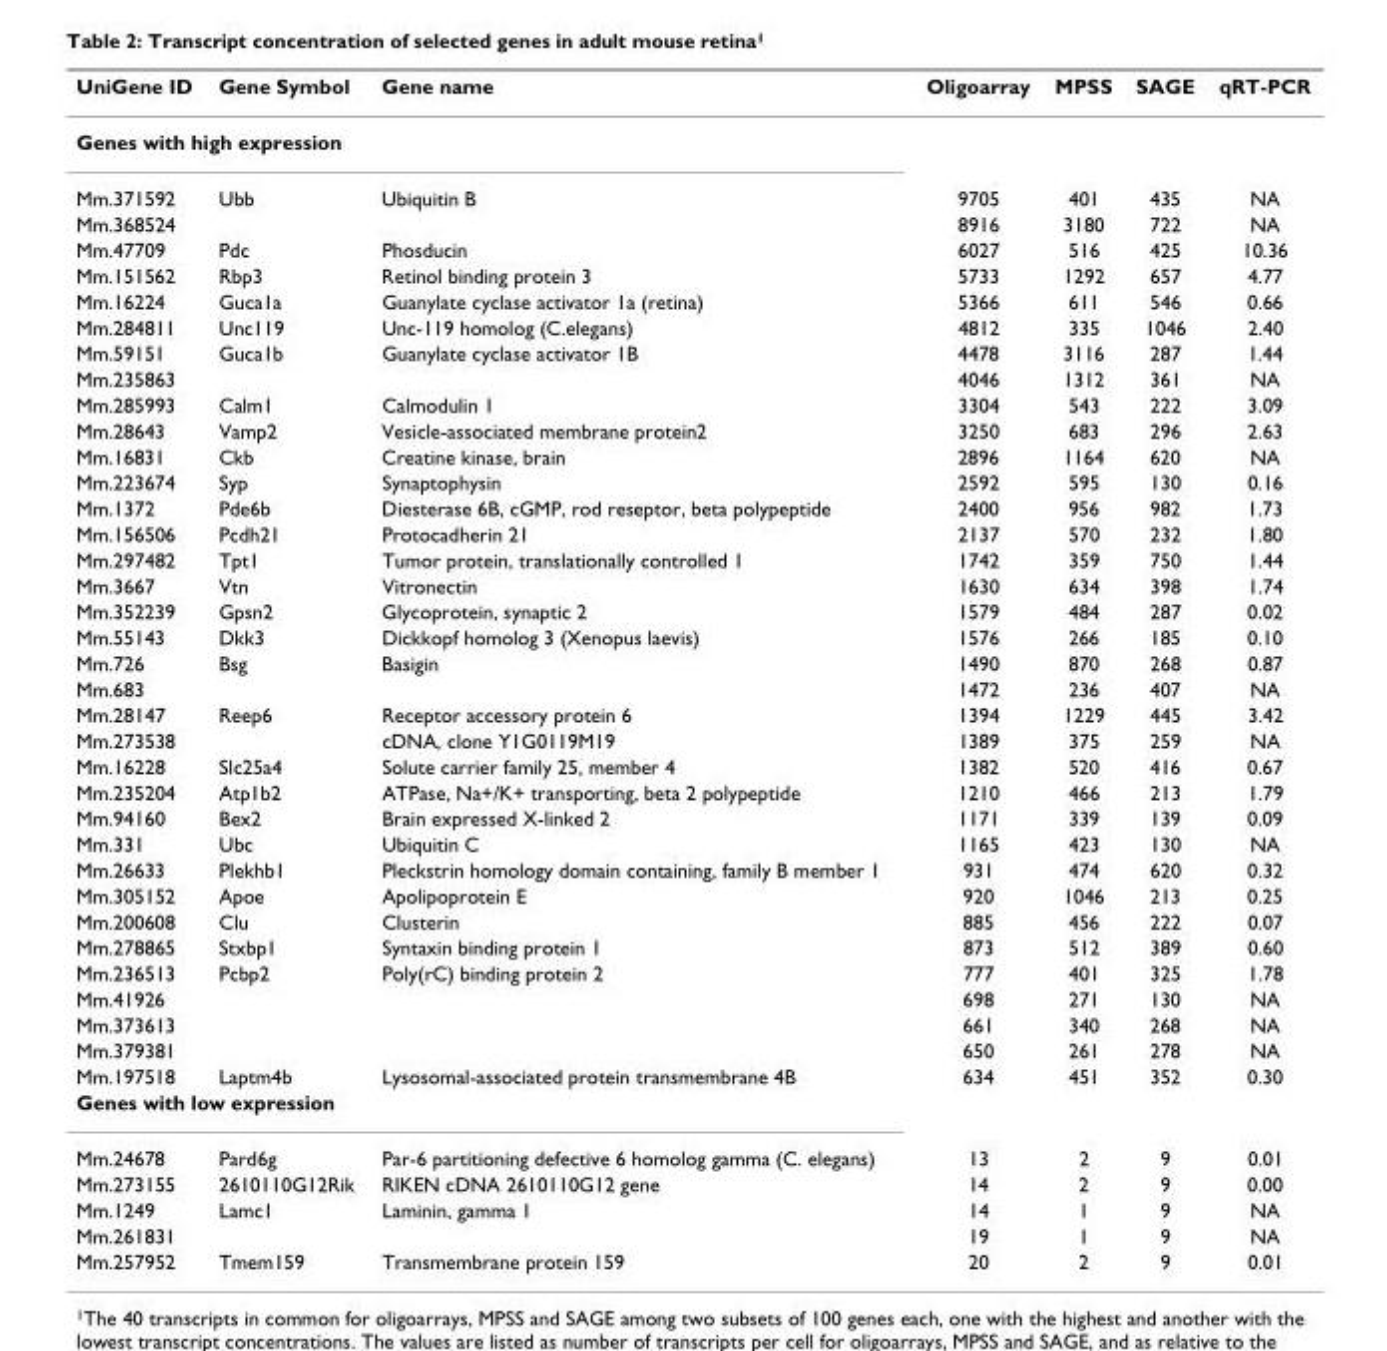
<table><thead><tr><td>UniGene ID</td><td>Gene Symbol</td><td>Gene name</td><td>Oligoarray</td><td>MPSS</td><td>SAGE</td><td>qRT-PCR</td></tr></thead><tbody><tr><td colspan="7">Genes with high expression</td></tr><tr><td>Mm.371592</td><td>Ubb</td><td>Ubiquitin B</td><td>9705</td><td>401</td><td>435</td><td>NA</td></tr><tr><td>Mm.368524</td><td></td><td></td><td>8916</td><td>3180</td><td>722</td><td>NA</td></tr><tr><td>Mm.47709</td><td>Pdc</td><td>Phosducin</td><td>6027</td><td>516</td><td>425</td><td>10.36</td></tr><tr><td>Mm.151562</td><td>Rbp3</td><td>Retinol binding protein 3</td><td>5733</td><td>1292</td><td>657</td><td>4.77</td></tr><tr><td>Mm.16224</td><td>Guca1a</td><td>Guanylate cyclase activator 1a (retina)</td><td>5366</td><td>611</td><td>546</td><td>0.66</td></tr><tr><td>Mm.284811</td><td>Unc119</td><td>Unc-119 homolog (C.elegans)</td><td>4812</td><td>335</td><td>1046</td><td>2.40</td></tr><tr><td>Mm.59151</td><td>Guca1b</td><td>Guanylate cyclase activator 1B</td><td>4478</td><td>3116</td><td>287</td><td>1.44</td></tr><tr><td>Mm.235863</td><td></td><td></td><td>4046</td><td>1312</td><td>361</td><td>NA</td></tr><tr><td>Mm.285993</td><td>Calm1</td><td>Calmodulin 1</td><td>3304</td><td>543</td><td>222</td><td>3.09</td></tr><tr><td>Mm.28643</td><td>Vamp2</td><td>Vesicle-associated membrane protein2</td><td>3250</td><td>683</td><td>296</td><td>2.63</td></tr><tr><td>Mm.16831</td><td>Ckb</td><td>Creatine kinase, brain</td><td>2896</td><td>1164</td><td>620</td><td>NA</td></tr><tr><td>Mm.223674</td><td>Syp</td><td>Synaptophysin</td><td>2592</td><td>595</td><td>130</td><td>0.16</td></tr><tr><td>Mm.1372</td><td>Pde6b</td><td>Diesterase 6B, cGMP, rod reseptor, beta polypeptide</td><td>2400</td><td>956</td><td>982</td><td>1.73</td></tr><tr><td>Mm.156506</td><td>Pcdh21</td><td>Protocadherin 21</td><td>2137</td><td>570</td><td>232</td><td>1.80</td></tr><tr><td>Mm.297482</td><td>Tpt1</td><td>Tumor protein, translationally controlled 1</td><td>1742</td><td>359</td><td>750</td><td>1.44</td></tr><tr><td>Mm.3667</td><td>Vtn</td><td>Vitronectin</td><td>1630</td><td>634</td><td>398</td><td>1.74</td></tr><tr><td>Mm.352239</td><td>Gpsn2</td><td>Glycoprotein, synaptic 2</td><td>1579</td><td>484</td><td>287</td><td>0.02</td></tr><tr><td>Mm.55143</td><td>Dkk3</td><td>Dickkopf homolog 3 (Xenopus laevis)</td><td>1576</td><td>266</td><td>185</td><td>0.10</td></tr><tr><td>Mm.726</td><td>Bsg</td><td>Basigin</td><td>1490</td><td>870</td><td>268</td><td>0.87</td></tr><tr><td>Mm.683</td><td></td><td></td><td>1472</td><td>236</td><td>407</td><td>NA</td></tr><tr><td>Mm.28147</td><td>Reep6</td><td>Receptor accessory protein 6</td><td>1394</td><td>1229</td><td>445</td><td>3.42</td></tr><tr><td>Mm.273538</td><td></td><td>cDNA, clone Y1G0119M19</td><td>1389</td><td>375</td><td>259</td><td>NA</td></tr><tr><td>Mm.16228</td><td>Slc25a4</td><td>Solute carrier family 25, member 4</td><td>1382</td><td>520</td><td>416</td><td>0.67</td></tr><tr><td>Mm.235204</td><td>Atp1b2</td><td>ATPase, Na+/K+ transporting, beta 2 polypeptide</td><td>1210</td><td>466</td><td>213</td><td>1.79</td></tr><tr><td>Mm.94160</td><td>Bex2</td><td>Brain expressed X-linked 2</td><td>1171</td><td>339</td><td>139</td><td>0.09</td></tr><tr><td>Mm.331</td><td>Ubc</td><td>Ubiquitin C</td><td>1165</td><td>423</td><td>130</td><td>NA</td></tr><tr><td>Mm.26633</td><td>Plekhb1</td><td>Pleckstrin homology domain containing, family B member 1</td><td>931</td><td>474</td><td>620</td><td>0.32</td></tr><tr><td>Mm.305152</td><td>Apoe</td><td>Apolipoprotein E</td><td>920</td><td>1046</td><td>213</td><td>0.25</td></tr><tr><td>Mm.200608</td><td>Clu</td><td>Clusterin</td><td>885</td><td>456</td><td>222</td><td>0.07</td></tr><tr><td>Mm.278865</td><td>Stxbp1</td><td>Syntaxin binding protein 1</td><td>873</td><td>512</td><td>389</td><td>0.60</td></tr><tr><td>Mm.236513</td><td>Pcbp2</td><td>Poly(rC) binding protein 2</td><td>777</td><td>401</td><td>325</td><td>1.78</td></tr><tr><td>Mm.41926</td><td></td><td></td><td>698</td><td>271</td><td>130</td><td>NA</td></tr><tr><td>Mm.373613</td><td></td><td></td><td>661</td><td>340</td><td>268</td><td>NA</td></tr><tr><td>Mm.379381</td><td></td><td></td><td>650</td><td>261</td><td>278</td><td>NA</td></tr><tr><td>Mm.197518</td><td>Laptm4b</td><td>Lysosomal-associated protein transmembrane 4B</td><td>634</td><td>451</td><td>352</td><td>0.30</td></tr><tr><td colspan="7">Genes with low expression</td></tr><tr><td>Mm.24678</td><td>Pard6g</td><td>Par-6 partitioning defective 6 homolog gamma (C. elegans)</td><td>13</td><td>2</td><td>9</td><td>0.01</td></tr><tr><td>Mm.273155</td><td>2610110G12Rik</td><td>RIKEN cDNA 2610110G12 gene</td><td>14</td><td>2</td><td>9</td><td>0.00</td></tr><tr><td>Mm.1249</td><td>Lamc1</td><td>Laminin, gamma 1</td><td>14</td><td>1</td><td>9</td><td>NA</td></tr><tr><td>Mm.261831</td><td></td><td></td><td>19</td><td>1</td><td>9</td><td>NA</td></tr><tr><td>Mm.257952</td><td>Tmem159</td><td>Transmembrane protein 159</td><td>20</td><td>2</td><td>9</td><td>0.01</td></tr></tbody></table>